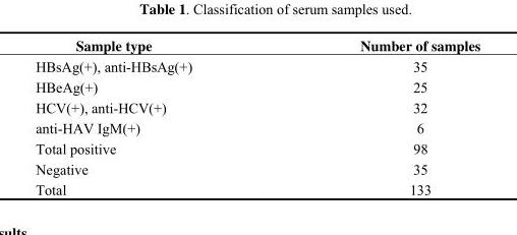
<table><thead><tr><td>Sample type</td><td>Number of samples</td></tr></thead><tbody><tr><td>HBsAg(+), anti-HBsAg(+)</td><td>35</td></tr><tr><td>HBeAg(+)</td><td>25</td></tr><tr><td>HCV(+), anti-HCV(+)</td><td>32</td></tr><tr><td>anti-HAV IgM(+)</td><td>6</td></tr><tr><td>Total positive</td><td>98</td></tr><tr><td>Negative</td><td>35</td></tr><tr><td>Total</td><td>133</td></tr></tbody></table>